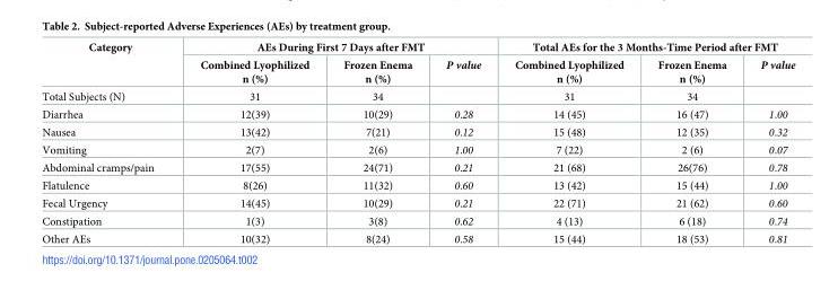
<table><thead><tr><td rowspan="2">Category</td><td colspan="3">AEs During First 7 Days after FMT</td><td colspan="3">Total AEs for the 3 Months-Time Period after FMT</td></tr><tr><td>Combined Lyophilized n (%)</td><td>Frozen Enema n (%)</td><td>P value</td><td>Combined Lyophilized n (%)</td><td>Frozen Enema n (%)</td><td>P value</td></tr></thead><tbody><tr><td>Total Subjects (N)</td><td>31</td><td>34</td><td></td><td>31</td><td>34</td><td></td></tr><tr><td>Diarrhea</td><td>12(39)</td><td>10(29)</td><td>0.28</td><td>14 (45)</td><td>16 (47)</td><td>1.00</td></tr><tr><td>Nausea</td><td>13(42)</td><td>7(21)</td><td>0.12</td><td>15 (48)</td><td>12 (35)</td><td>0.32</td></tr><tr><td>Vomiting</td><td>2(7)</td><td>2(6)</td><td>1.00</td><td>7 (22)</td><td>2 (6)</td><td>0.07</td></tr><tr><td>Abdominal cramps/pain</td><td>17(55)</td><td>24(71)</td><td>0.21</td><td>21 (68)</td><td>26(76)</td><td>0.78</td></tr><tr><td>Flatulence</td><td>8(26)</td><td>11(32)</td><td>0.60</td><td>13 (42)</td><td>15 (44)</td><td>1.00</td></tr><tr><td>Fecal Urgency</td><td>14(45)</td><td>10(29)</td><td>0.21</td><td>22 (71)</td><td>21 (62)</td><td>0.60</td></tr><tr><td>Constipation</td><td>1(3)</td><td>3(8)</td><td>0.62</td><td>4 (13)</td><td>6 (18)</td><td>0.74</td></tr><tr><td>Other AEs</td><td>10(32)</td><td>8(24)</td><td>0.58</td><td>15 (44)</td><td>18 (53)</td><td>0.81</td></tr></tbody></table>